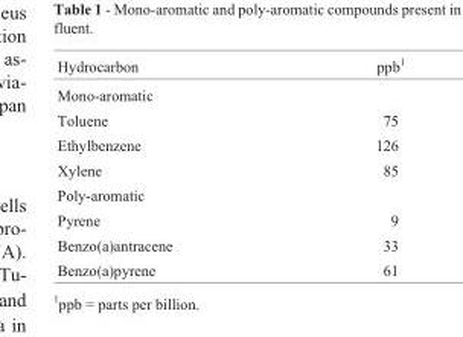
<table><thead><tr><td>Hydrocarbon</td><td>ppb<sup>1</sup></td></tr></thead><tbody><tr><td colspan="2">Mono-aromatic</td></tr><tr><td>Toluene</td><td>75</td></tr><tr><td>Ethylbenzene</td><td>126</td></tr><tr><td>Xylene</td><td>85</td></tr><tr><td colspan="2">Poly-aromatic</td></tr><tr><td>Pyrene</td><td>9</td></tr><tr><td>Benzo(a)antracene</td><td>33</td></tr><tr><td>Benzo(a)pyrene</td><td>61</td></tr></tbody></table>